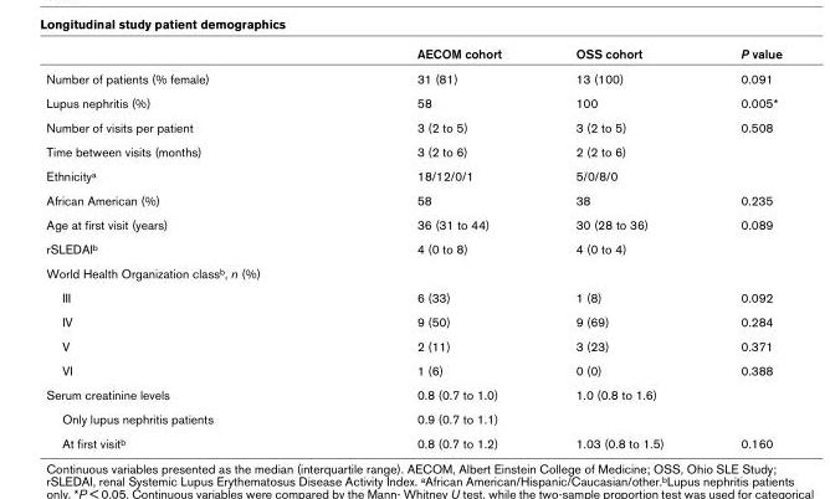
<table><thead><tr><td></td><td>AECOM cohort</td><td>OSS cohort</td><td>P value</td></tr></thead><tbody><tr><td>Number of patients (% female)</td><td>31 (81)</td><td>13 (100)</td><td>0.091</td></tr><tr><td>Lupus nephritis (%)</td><td>58</td><td>100</td><td>0.005*</td></tr><tr><td>Number of visits per patient</td><td>3 (2 to 5)</td><td>3 (2 to 5)</td><td>0.508</td></tr><tr><td>Time between visits (months)</td><td>3 (2 to 6)</td><td>2 (2 to 6)</td><td></td></tr><tr><td>Ethnicity<sup>a</sup></td><td>18/12/0/1</td><td>5/0/8/0</td><td></td></tr><tr><td>African American (%)</td><td>58</td><td>38</td><td>0.235</td></tr><tr><td>Age at first visit (years)</td><td>36 (31 to 44)</td><td>30 (28 to 36)</td><td>0.089</td></tr><tr><td>rSLEDAI<sup>b</sup></td><td>4 (0 to 8)</td><td>4 (0 to 4)</td><td></td></tr><tr><td colspan="4">World Health Organization class<sup>b</sup>, n (%)</td></tr><tr><td>III</td><td>6 (33)</td><td>1 (8)</td><td>0.092</td></tr><tr><td>IV</td><td>9 (50)</td><td>9 (69)</td><td>0.284</td></tr><tr><td>V</td><td>2 (11)</td><td>3 (23)</td><td>0.371</td></tr><tr><td>VI</td><td>1 (6)</td><td>0 (0)</td><td>0.388</td></tr><tr><td>Serum creatinine levels</td><td>0.8 (0.7 to 1.0)</td><td>1.0 (0.8 to 1.6)</td><td></td></tr><tr><td>Only lupus nephritis patients</td><td>0.9 (0.7 to 1.1)</td><td></td><td></td></tr><tr><td>At first visit<sup>b</sup></td><td>0.8 (0.7 to 1.2)</td><td>1.03 (0.8 to 1.5)</td><td>0.160</td></tr></tbody></table>